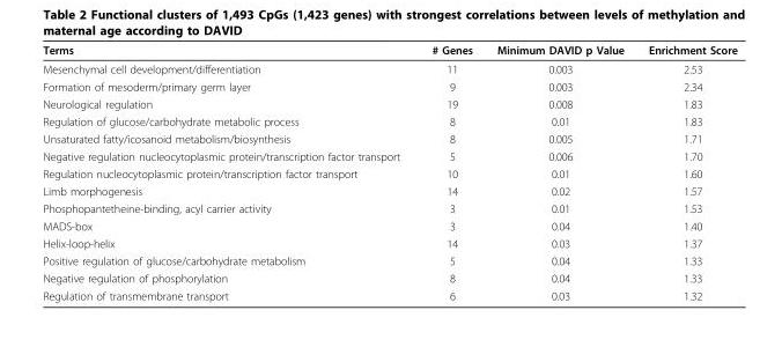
<table><thead><tr><td>Terms</td><td># Genes</td><td>Minimum DAVID p Value</td><td>Enrichment Score</td></tr></thead><tbody><tr><td>Mesenchymal cell development/differentiation</td><td>11</td><td>0.003</td><td>2.53</td></tr><tr><td>Formation of mesoderm/primary germ layer</td><td>9</td><td>0.003</td><td>2.34</td></tr><tr><td>Neurological regulation</td><td>19</td><td>0.008</td><td>1.83</td></tr><tr><td>Regulation of glucose/carbohydrate metabolic process</td><td>8</td><td>0.01</td><td>1.83</td></tr><tr><td>Unsaturated fatty/icosanoid metabolism/biosynthesis</td><td>8</td><td>0.005</td><td>1.71</td></tr><tr><td>Negative regulation nucleocytoplasmic protein/transcription factor transport</td><td>5</td><td>0.006</td><td>1.70</td></tr><tr><td>Regulation nucleocytoplasmic protein/transcription factor transport</td><td>10</td><td>0.01</td><td>1.60</td></tr><tr><td>Limb morphogenesis</td><td>14</td><td>0.02</td><td>1.57</td></tr><tr><td>Phosphopantetheine-binding, acyl carrier activity</td><td>3</td><td>0.01</td><td>1.53</td></tr><tr><td>MADS-box</td><td>3</td><td>0.04</td><td>1.40</td></tr><tr><td>Helix-loop-helix</td><td>14</td><td>0.03</td><td>1.37</td></tr><tr><td>Positive regulation of glucose/carbohydrate metabolism</td><td>5</td><td>0.04</td><td>1.33</td></tr><tr><td>Negative regulation of phosphorylation</td><td>8</td><td>0.04</td><td>1.33</td></tr><tr><td>Regulation of transmembrane transport</td><td>6</td><td>0.03</td><td>1.32</td></tr></tbody></table>